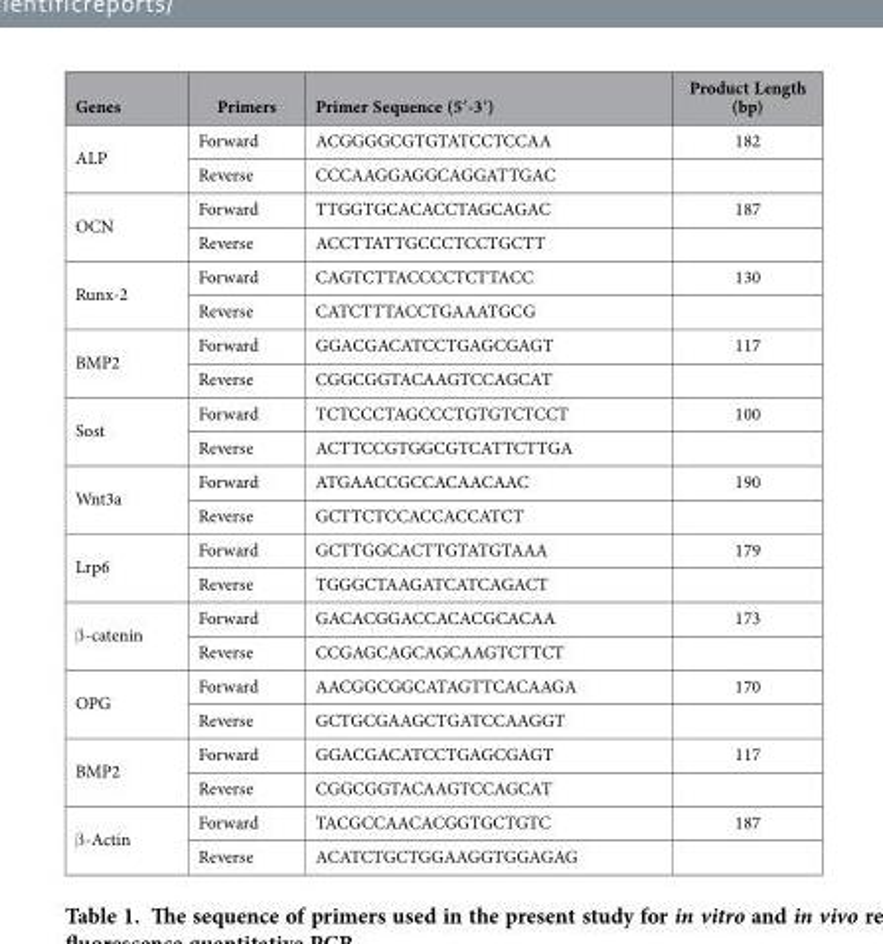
<table><thead><tr><td>Genes</td><td>Primers</td><td>Primer Sequence (5′-3′)</td><td>Product Length (bp)</td></tr></thead><tbody><tr><td rowspan="2">ALP</td><td>Forward</td><td>ACGGGGCGTGTATCCTCCAA</td><td>182</td></tr><tr><td>Reverse</td><td>CCCAAGGAGGCAGGATTGAC</td><td></td></tr><tr><td rowspan="2">OCN</td><td>Forward</td><td>TTGGTGCACACCTAGCAGAC</td><td>187</td></tr><tr><td>Reverse</td><td>ACCTTATTGCCCTCCTGCTT</td><td></td></tr><tr><td rowspan="2">Runx-2</td><td>Forward</td><td>CAGTCTTACCCCTCTTACC</td><td>130</td></tr><tr><td>Reverse</td><td>CATCTTTACCTGAAATGCG</td><td></td></tr><tr><td rowspan="2">BMP2</td><td>Forward</td><td>GGACGACATCCTGAGCGAGT</td><td>117</td></tr><tr><td>Reverse</td><td>CGGCGGTACAAGTCCAGCAT</td><td></td></tr><tr><td rowspan="2">Sost</td><td>Forward</td><td>TCTCCCTAGCCCTGTGTCTCCT</td><td>100</td></tr><tr><td>Reverse</td><td>ACTTCCGTGGCGTCATTCTTGA</td><td></td></tr><tr><td rowspan="2">Wnt3a</td><td>Forward</td><td>ATGAACCGCCACAACAAC</td><td>190</td></tr><tr><td>Reverse</td><td>GCTTCTCCACCACCATCT</td><td></td></tr><tr><td rowspan="2">Lrp6</td><td>Forward</td><td>GCTTGGCACTTGTATGTAAA</td><td>179</td></tr><tr><td>Reverse</td><td>TGGGCTAAGATCATCAGACT</td><td></td></tr><tr><td rowspan="2">β -catenin</td><td>Forward</td><td>GACACGGACCACACGCACAA</td><td>173</td></tr><tr><td>Reverse</td><td>CCGAGCAGCAGCAAGTCTTCT</td><td></td></tr><tr><td rowspan="2">OPG</td><td>Forward</td><td>AACGGCGGCATAGTTCACAAGA</td><td>170</td></tr><tr><td>Reverse</td><td>GCTGCGAAGCTGATCCAAGGT</td><td></td></tr><tr><td rowspan="2">BMP2</td><td>Forward</td><td>GGACGACATCCTGAGCGAGT</td><td>117</td></tr><tr><td>Reverse</td><td>CGGCGGTACAAGTCCAGCAT</td><td></td></tr><tr><td rowspan="2">β -Actin</td><td>Forward</td><td>TACGCCAACACGGTGCTGTC</td><td>187</td></tr><tr><td>Reverse</td><td>ACATCTGCTGGAAGGTGGAGAG</td><td></td></tr></tbody></table>